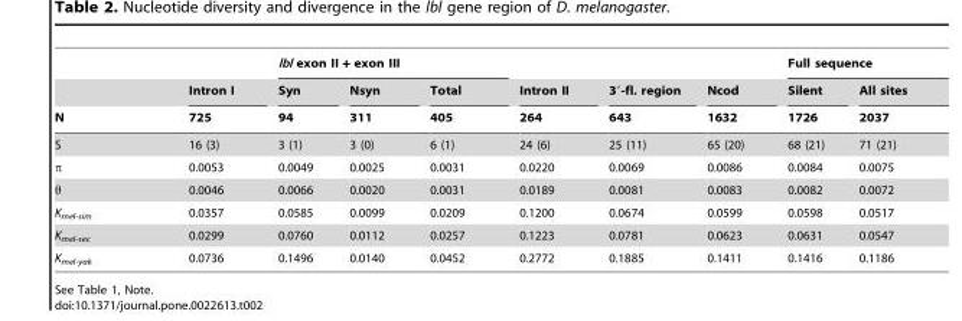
<table><thead><tr><td rowspan="3">N</td><td rowspan="3">Intron I 725</td><td colspan="3">lbl exon II + exon III</td><td rowspan="3">Intron II 264</td><td rowspan="3">3′-fl. region 643</td><td rowspan="3">Ncod 1632</td><td colspan="2">Full sequence</td></tr><tr><td rowspan="2">Syn 94</td><td rowspan="2">Nsyn 311</td><td rowspan="2">Total 405</td><td rowspan="2">Silent 1726</td><td rowspan="2">All sites 2037</td></tr><tr></tr></thead><tbody><tr><td>S</td><td>16 (3)</td><td>3 (1)</td><td>3 (0)</td><td>6 (1)</td><td>24 (6)</td><td>25 (11)</td><td>65 (20)</td><td>68 (21)</td><td>71 (21)</td></tr><tr><td>π</td><td>0.0053</td><td>0.0049</td><td>0.0025</td><td>0.0031</td><td>0.0220</td><td>0.0069</td><td>0.0086</td><td>0.0084</td><td>0.0075</td></tr><tr><td>θ</td><td>0.0046</td><td>0.0066</td><td>0.0020</td><td>0.0031</td><td>0.0189</td><td>0.0081</td><td>0.0083</td><td>0.0082</td><td>0.0072</td></tr><tr><td>K<sub>mel-sim</sub></td><td>0.0357</td><td>0.0585</td><td>0.0099</td><td>0.0209</td><td>0.1200</td><td>0.0674</td><td>0.0599</td><td>0.0598</td><td>0.0517</td></tr><tr><td>K<sub>mel-sec</sub></td><td>0.0299</td><td>0.0760</td><td>0.0112</td><td>0.0257</td><td>0.1223</td><td>0.0781</td><td>0.0623</td><td>0.0631</td><td>0.0547</td></tr><tr><td>K<sub>mel-yak</sub></td><td>0.0736</td><td>0.1496</td><td>0.0140</td><td>0.0452</td><td>0.2772</td><td>0.1885</td><td>0.1411</td><td>0.1416</td><td>0.1186</td></tr></tbody></table>